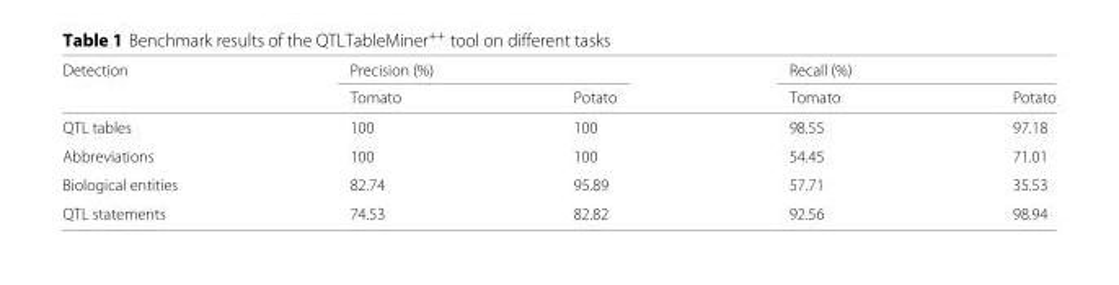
<table><thead><tr><td rowspan="2">Detection</td><td colspan="2">Precision (%)</td><td colspan="2">Recall (%)</td></tr><tr><td>Tomato</td><td>Potato</td><td>Tomato</td><td>Potato</td></tr></thead><tbody><tr><td>QTL tables</td><td>100</td><td>100</td><td>98.55</td><td>97.18</td></tr><tr><td>Abbreviations</td><td>100</td><td>100</td><td>54.45</td><td>71.01</td></tr><tr><td>Biological entities</td><td>82.74</td><td>95.89</td><td>57.71</td><td>35.53</td></tr><tr><td>QTL statements</td><td>74.53</td><td>82.82</td><td>92.56</td><td>98.94</td></tr></tbody></table>